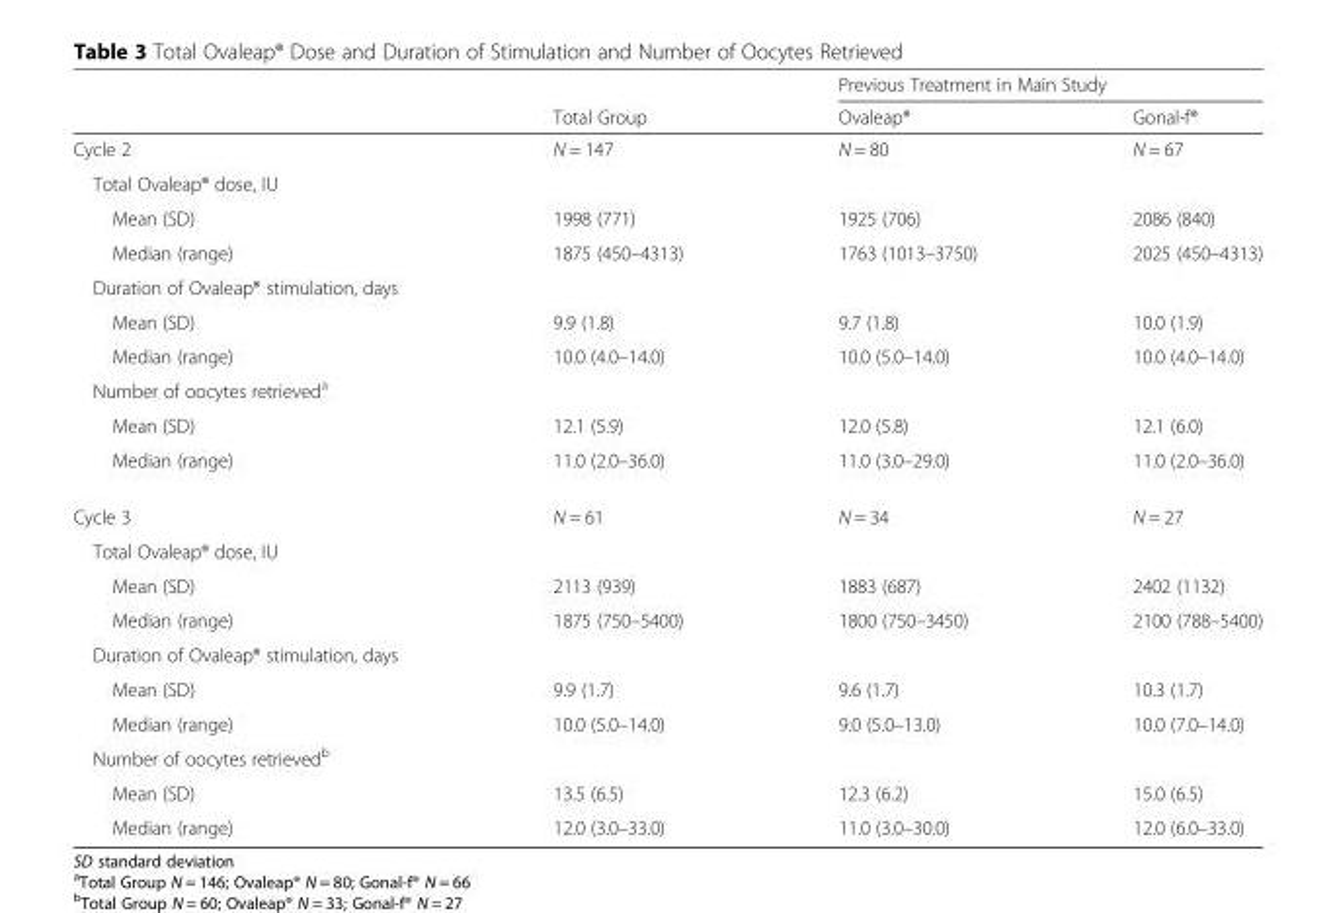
<table><thead><tr><td rowspan="2"></td><td rowspan="2">Total Group</td><td colspan="2">Previous Treatment in Main Study</td></tr><tr><td>Ovaleap®</td><td>Gonal-f®</td></tr></thead><tbody><tr><td>Cycle 2</td><td>N = 147</td><td>N = 80</td><td>N = 67</td></tr><tr><td colspan="4">Total Ovaleap® dose, IU</td></tr><tr><td>Mean (SD)</td><td>1998 (771)</td><td>1925 (706)</td><td>2086 (840)</td></tr><tr><td>Median (range)</td><td>1875 (450–4313)</td><td>1763 (1013–3750)</td><td>2025 (450–4313)</td></tr><tr><td colspan="4">Duration of Ovaleap® stimulation, days</td></tr><tr><td>Mean (SD)</td><td>9.9 (1.8)</td><td>9.7 (1.8)</td><td>10.0 (1.9)</td></tr><tr><td>Median (range)</td><td>10.0 (4.0–14.0)</td><td>10.0 (5.0–14.0)</td><td>10.0 (4.0–14.0)</td></tr><tr><td colspan="4">Number of oocytes retrieved<sup>a</sup></td></tr><tr><td>Mean (SD)</td><td>12.1 (5.9)</td><td>12.0 (5.8)</td><td>12.1 (6.0)</td></tr><tr><td>Median (range)</td><td>11.0 (2.0–36.0)</td><td>11.0 (3.0–29.0)</td><td>11.0 (2.0–36.0)</td></tr><tr><td>Cycle 3</td><td>N = 61</td><td>N = 34</td><td>N = 27</td></tr><tr><td colspan="4">Total Ovaleap® dose, IU</td></tr><tr><td>Mean (SD)</td><td>2113 (939)</td><td>1883 (687)</td><td>2402 (1132)</td></tr><tr><td>Median (range)</td><td>1875 (750–5400)</td><td>1800 (750–3450)</td><td>2100 (788–5400)</td></tr><tr><td colspan="4">Duration of Ovaleap® stimulation, days</td></tr><tr><td>Mean (SD)</td><td>9.9 (1.7)</td><td>9.6 (1.7)</td><td>10.3 (1.7)</td></tr><tr><td>Median (range)</td><td>10.0 (5.0–14.0)</td><td>9.0 (5.0–13.0)</td><td>10.0 (7.0–14.0)</td></tr><tr><td colspan="4">Number of oocytes retrieved<sup>b</sup></td></tr><tr><td>Mean (SD)</td><td>13.5 (6.5)</td><td>12.3 (6.2)</td><td>15.0 (6.5)</td></tr><tr><td>Median (range)</td><td>12.0 (3.0–33.0)</td><td>11.0 (3.0–30.0)</td><td>12.0 (6.0–33.0)</td></tr></tbody></table>